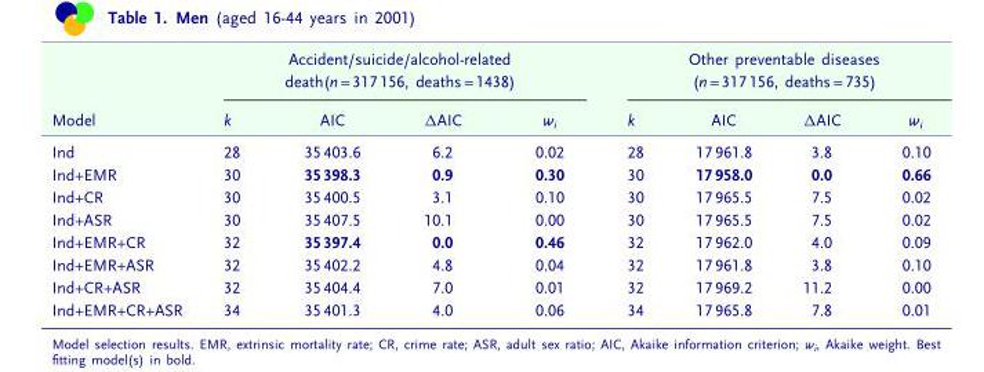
<table><thead><tr><td rowspan="2">Model</td><td colspan="4">Accident/suicide/alcohol-related death(n = 317 156, deaths = 1438)</td><td colspan="4">Other preventable diseases (n = 317 156, deaths = 735)</td></tr><tr><td>k</td><td>AIC</td><td>ΔAIC</td><td>w<sub>i</sub></td><td>k</td><td>AIC</td><td>ΔAIC</td><td>w<sub>i</sub></td></tr></thead><tbody><tr><td>Ind</td><td>28</td><td>35 403.6</td><td>6.2</td><td>0.02</td><td>28</td><td>17 961.8</td><td>3.8</td><td>0.10</td></tr><tr><td>Ind+EMR</td><td>30</td><td>35 398.3</td><td>0.9</td><td>0.30</td><td>30</td><td>17 958.0</td><td>0.0</td><td>0.66</td></tr><tr><td>Ind+CR</td><td>30</td><td>35 400.5</td><td>3.1</td><td>0.10</td><td>30</td><td>17 965.5</td><td>7.5</td><td>0.02</td></tr><tr><td>Ind+ASR</td><td>30</td><td>35 407.5</td><td>10.1</td><td>0.00</td><td>30</td><td>17 965.5</td><td>7.5</td><td>0.02</td></tr><tr><td>Ind+EMR+CR</td><td>32</td><td>35 397.4</td><td>0.0</td><td>0.46</td><td>32</td><td>17 962.0</td><td>4.0</td><td>0.09</td></tr><tr><td>Ind+EMR+ASR</td><td>32</td><td>35 402.2</td><td>4.8</td><td>0.04</td><td>32</td><td>17 961.8</td><td>3.8</td><td>0.10</td></tr><tr><td>Ind+CR+ASR</td><td>32</td><td>35 404.4</td><td>7.0</td><td>0.01</td><td>32</td><td>17 969.2</td><td>11.2</td><td>0.00</td></tr><tr><td>Ind+EMR+CR+ASR</td><td>34</td><td>35 401.3</td><td>4.0</td><td>0.06</td><td>34</td><td>17 965.8</td><td>7.8</td><td>0.01</td></tr></tbody></table>